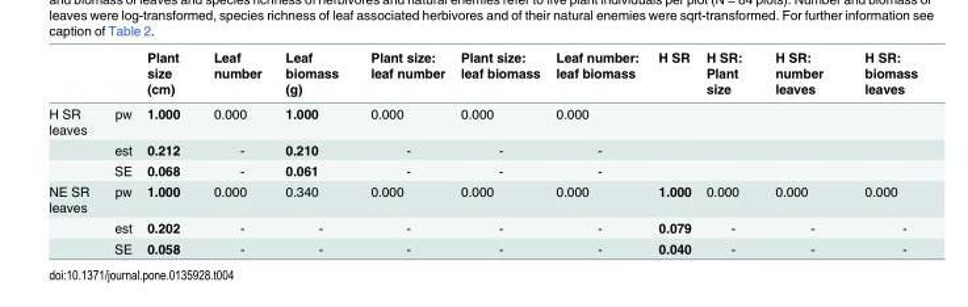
<table><thead><tr><td></td><td></td><td>Plant size (cm)</td><td>Leaf number</td><td>Leaf biomass (g)</td><td>Plant size: leaf number</td><td>Plant size: leaf biomass</td><td>Leaf number: leaf biomass</td><td>H SR</td><td>H SR: Plant size</td><td>H SR: number leaves</td><td>H SR: biomass leaves</td></tr></thead><tbody><tr><td rowspan="3">H SR leaves</td><td>pw</td><td>1.000</td><td>0.000</td><td>1.000</td><td>0.000</td><td>0.000</td><td>0.000</td><td></td><td></td><td></td><td></td></tr><tr><td>est</td><td>0.212</td><td>-</td><td>0.210</td><td>-</td><td>-</td><td>-</td><td></td><td></td><td></td><td></td></tr><tr><td>SE</td><td>0.068</td><td>-</td><td>0.061</td><td>-</td><td>-</td><td>-</td><td></td><td></td><td></td><td></td></tr><tr><td rowspan="3">NE SR leaves</td><td>pw</td><td>1.000</td><td>0.000</td><td>0.340</td><td>0.000</td><td>0.000</td><td>0.000</td><td>1.000</td><td>0.000</td><td>0.000</td><td>0.000</td></tr><tr><td>est</td><td>0.202</td><td>-</td><td>-</td><td>-</td><td>-</td><td>-</td><td>0.079</td><td>-</td><td>-</td><td>-</td></tr><tr><td>SE</td><td>0.058</td><td>-</td><td>-</td><td>-</td><td>-</td><td>-</td><td>0.040</td><td>-</td><td>-</td><td>-</td></tr></tbody></table>